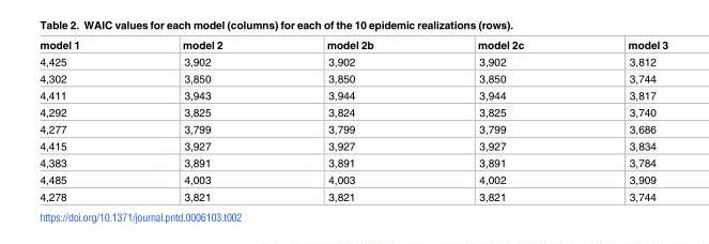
<table><thead><tr><td>model 1</td><td>model 2</td><td>model 2b</td><td>model 2c</td><td>model 3</td></tr></thead><tbody><tr><td>4,425</td><td>3,902</td><td>3,902</td><td>3,902</td><td>3,812</td></tr><tr><td>4,302</td><td>3,850</td><td>3,850</td><td>3,850</td><td>3,744</td></tr><tr><td>4,411</td><td>3,943</td><td>3,944</td><td>3,944</td><td>3,817</td></tr><tr><td>4,292</td><td>3,825</td><td>3,824</td><td>3,825</td><td>3,740</td></tr><tr><td>4,277</td><td>3,799</td><td>3,799</td><td>3,799</td><td>3,686</td></tr><tr><td>4,415</td><td>3,927</td><td>3,927</td><td>3,927</td><td>3,834</td></tr><tr><td>4,383</td><td>3,891</td><td>3,891</td><td>3,891</td><td>3,784</td></tr><tr><td>4,485</td><td>4,003</td><td>4,003</td><td>4,002</td><td>3,909</td></tr><tr><td>4,278</td><td>3,821</td><td>3,821</td><td>3,821</td><td>3,744</td></tr></tbody></table>